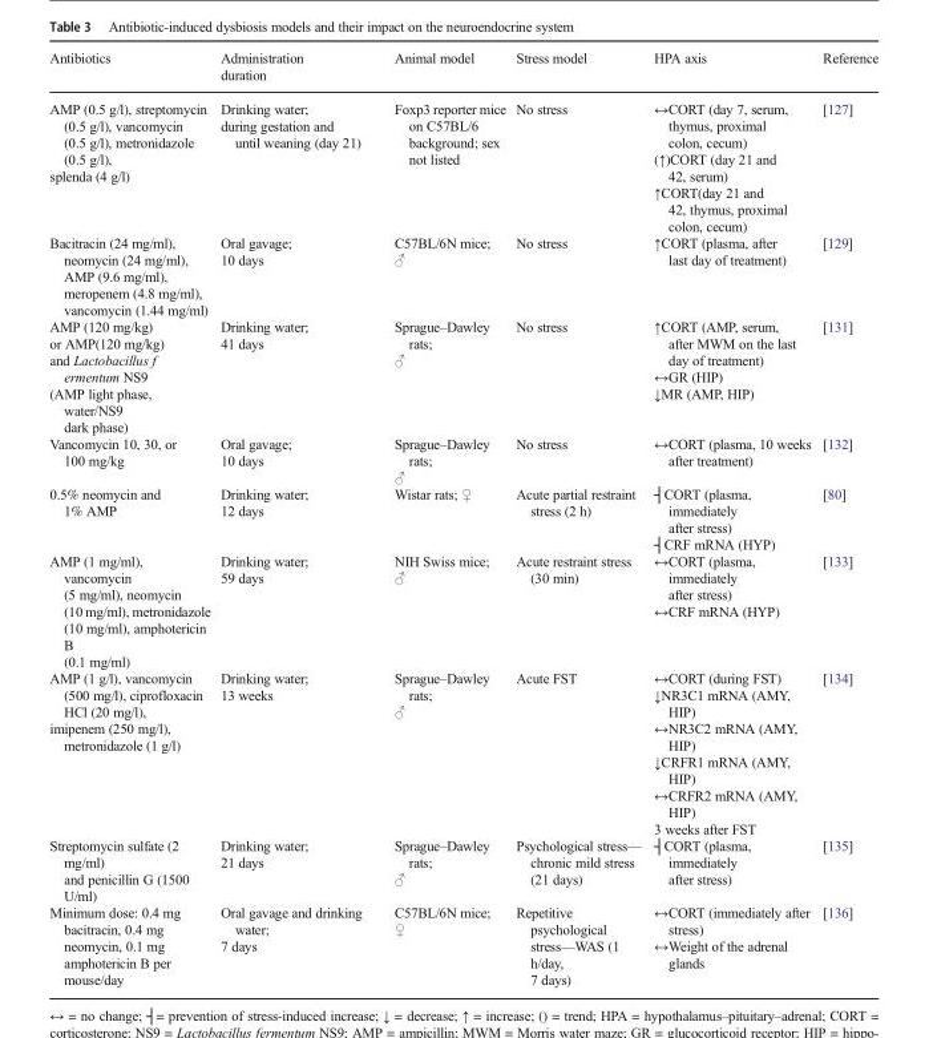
<table><thead><tr><td>Antibiotics</td><td>Administration duration</td><td>Animal model</td><td>Stress model</td><td>HPA axis</td><td>Reference</td></tr></thead><tbody><tr><td>AMP (0.5 g/l), streptomycin (0.5 g/l), vancomycin (0.5 g/l), metronidazole (0.5 g/l), splenda (4 g/l)</td><td>Drinking water; during gestation and until weaning (day 21)</td><td>Foxp3 reporter mice on C57BL/6 background; sex not listed</td><td>No stress</td><td>↔CORT (day 7, serum, thymus, proximal colon, cecum) (↑)CORT (day 21 and 42, serum) ↑CORT(day 21 and 42, thymus, proximal colon, cecum)</td><td>[127]</td></tr><tr><td>Bacitracin (24 mg/ml), neomycin (24 mg/ml), AMP (9.6 mg/ml), meropenem (4.8 mg/ml), vancomycin (1.44 mg/ml)</td><td>Oral gavage; 10 days</td><td>C57BL/6N mice; ♂</td><td>No stress</td><td>↑CORT (plasma, after last day of treatment)</td><td>[129]</td></tr><tr><td>AMP (120 mg/kg) or AMP(120 mg/kg) and Lactobacillus f ermentum NS9 (AMP light phase, water/NS9 dark phase)</td><td>Drinking water; 41 days</td><td>Sprague–Dawley rats; ♂</td><td>No stress</td><td>↑CORT (AMP, serum, after MWM on the last day of treatment) ↔GR (HIP) ↓MR (AMP, HIP)</td><td>[131]</td></tr><tr><td>Vancomycin 10, 30, or 100 mg/kg</td><td>Oral gavage; 10 days</td><td>Sprague–Dawley rats; ♂</td><td>No stress</td><td>↔CORT (plasma, 10 weeks after treatment)</td><td>[132]</td></tr><tr><td>0.5% neomycin and 1% AMP</td><td>Drinking water; 12 days</td><td>Wistar rats; ♀</td><td>Acute partial restraint stress (2 h)</td><td>┤CORT (plasma, immediately after stress) ┤CRF mRNA (HYP)</td><td>[80]</td></tr><tr><td>AMP (1 mg/ml), vancomycin (5 mg/ml), neomycin (10 mg/ml), metronidazole (10 mg/ml), amphotericin B (0.1 mg/ml)</td><td>Drinking water; 59 days</td><td>NIH Swiss mice; ♂</td><td>Acute restraint stress (30 min)</td><td>↔CORT (plasma, immediately after stress) ↔CRF mRNA (HYP)</td><td>[133]</td></tr><tr><td>AMP (1 g/l), vancomycin (500 mg/l), ciprofloxacin HCl (20 mg/l), imipenem (250 mg/l), metronidazole (1 g/l)</td><td>Drinking water; 13 weeks</td><td>Sprague–Dawley rats; ♂</td><td>Acute FST</td><td>↔CORT (during FST) ↓NR3C1 mRNA (AMY, HIP) ↔NR3C2 mRNA (AMY, HIP) ↓CRFR1 mRNA (AMY, HIP) ↔CRFR2 mRNA (AMY, HIP) 3 weeks after FST</td><td>[134]</td></tr><tr><td>Streptomycin sulfate (2 mg/ml) and penicillin G (1500 U/ml)</td><td>Drinking water; 21 days</td><td>Sprague–Dawley rats; ♂</td><td>Psychological stress— chronic mild stress (21 days)</td><td>┤CORT (plasma, immediately after stress)</td><td>[135]</td></tr><tr><td>Minimum dose: 0.4 mg bacitracin, 0.4 mg neomycin, 0.1 mg amphotericin B per mouse/day</td><td>Oral gavage and drinking water; 7 days</td><td>C57BL/6N mice; ♀</td><td>Repetitive psychological stress—WAS (1 h/day, 7 days)</td><td>↔CORT (immediately after stress) ↔Weight of the adrenal glands</td><td>[136]</td></tr></tbody></table>